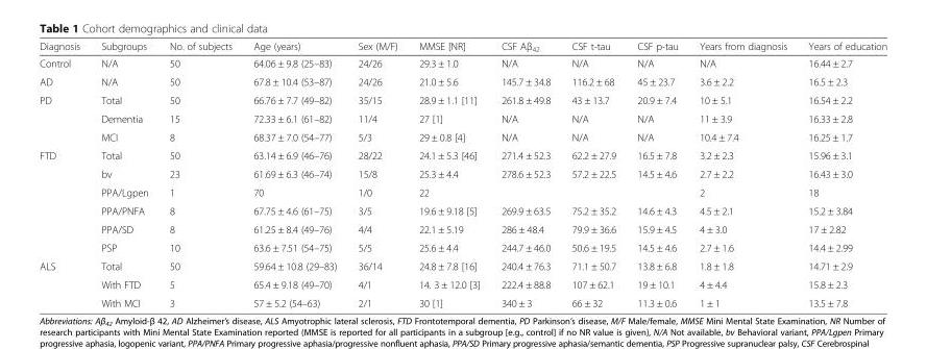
<table><thead><tr><td>Diagnosis</td><td>Subgroups</td><td>No. of subjects</td><td>Age (years)</td><td>Sex (M/F)</td><td>MMSE [NR]</td><td>CSF Aβ<sub>42</sub></td><td>CSF t-tau</td><td>CSF p-tau</td><td>Years from diagnosis</td><td>Years of education</td></tr></thead><tbody><tr><td>Control</td><td>N/A</td><td>50</td><td>64.06 ± 9.8 (25–83)</td><td>24/26</td><td>29.3 ± 1.0</td><td>N/A</td><td>N/A</td><td>N/A</td><td>N/A</td><td>16.44 ± 2.7</td></tr><tr><td>AD</td><td>N/A</td><td>50</td><td>67.8 ± 10.4 (53–87)</td><td>24/26</td><td>21.0 ± 5.6</td><td>145.7 ± 34.8</td><td>116.2 ± 68</td><td>45 ± 23.7</td><td>3.6 ± 2.2</td><td>16.5 ± 2.3</td></tr><tr><td rowspan="3">PD</td><td>Total</td><td>50</td><td>66.76 ± 7.7 (49–82)</td><td>35/15</td><td>28.9 ± 1.1 [11]</td><td>261.8 ± 49.8</td><td>43 ± 13.7</td><td>20.9 ± 7.4</td><td>10 ± 5.1</td><td>16.54 ± 2.2</td></tr><tr><td>Dementia</td><td>15</td><td>72.33 ± 6.1 (61–82)</td><td>11/4</td><td>27 [1]</td><td>N/A</td><td>N/A</td><td>N/A</td><td>11 ± 3.9</td><td>16.33 ± 2.8</td></tr><tr><td>MCI</td><td>8</td><td>68.37 ± 7.0 (54–77)</td><td>5/3</td><td>29 ± 0.8 [4]</td><td>N/A</td><td>N/A</td><td>N/A</td><td>10.4 ± 7.4</td><td>16.25 ± 1.7</td></tr><tr><td rowspan="6">FTD</td><td>Total</td><td>50</td><td>63.14 ± 6.9 (46–76)</td><td>28/22</td><td>24.1 ± 5.3 [46]</td><td>271.4 ± 52.3</td><td>62.2 ± 27.9</td><td>16.5 ± 7.8</td><td>3.2 ± 2.3</td><td>15.96 ± 3.1</td></tr><tr><td>bv</td><td>23</td><td>61.69 ± 6.3 (46–74)</td><td>15/8</td><td>25.3 ± 4.4</td><td>278.6 ± 52.3</td><td>57.2 ± 22.5</td><td>14.5 ± 4.6</td><td>2.7 ± 2.2</td><td>16.43 ± 3.0</td></tr><tr><td>PPA/Lgpen</td><td>1</td><td>70</td><td>1/0</td><td>22</td><td></td><td></td><td></td><td>2</td><td>18</td></tr><tr><td>PPA/PNFA</td><td>8</td><td>67.75 ± 4.6 (61–75)</td><td>3/5</td><td>19.6 ± 9.18 [5]</td><td>269.9 ± 63.5</td><td>75.2 ± 35.2</td><td>14.6 ± 4.3</td><td>4.5 ± 2.1</td><td>15.2 ± 3.84</td></tr><tr><td>PPA/SD</td><td>8</td><td>61.25 ± 8.4 (49–76)</td><td>4/4</td><td>22.1 ± 5.19</td><td>286 ± 48.4</td><td>79.9 ± 36.6</td><td>15.9 ± 4.5</td><td>4 ± 3.0</td><td>17 ± 2.82</td></tr><tr><td>PSP</td><td>10</td><td>63.6 ± 7.51 (54–75)</td><td>5/5</td><td>25.6 ± 4.4</td><td>244.7 ± 46.0</td><td>50.6 ± 19.5</td><td>14.5 ± 4.6</td><td>2.7 ± 1.6</td><td>14.4 ± 2.99</td></tr><tr><td rowspan="3">ALS</td><td>Total</td><td>50</td><td>59.64 ± 10.8 (29–83)</td><td>36/14</td><td>24.8 ± 7.8 [16]</td><td>240.4 ± 76.3</td><td>71.1 ± 50.7</td><td>13.8 ± 6.8</td><td>1.8 ± 1.8</td><td>14.71 ± 2.9</td></tr><tr><td>With FTD</td><td>5</td><td>65.4 ± 9.18 (49–70)</td><td>4/1</td><td>14. 3 ± 12.0 [3]</td><td>222.4 ± 88.8</td><td>107 ± 62.1</td><td>19 ± 10.1</td><td>4 ± 4.4</td><td>15.8 ± 2.3</td></tr><tr><td>With MCI</td><td>3</td><td>57 ± 5.2 (54–63)</td><td>2/1</td><td>30 [1]</td><td>340 ± 3</td><td>66 ± 32</td><td>11.3 ± 0.6</td><td>1 ± 1</td><td>13.5 ± 7.8</td></tr></tbody></table>